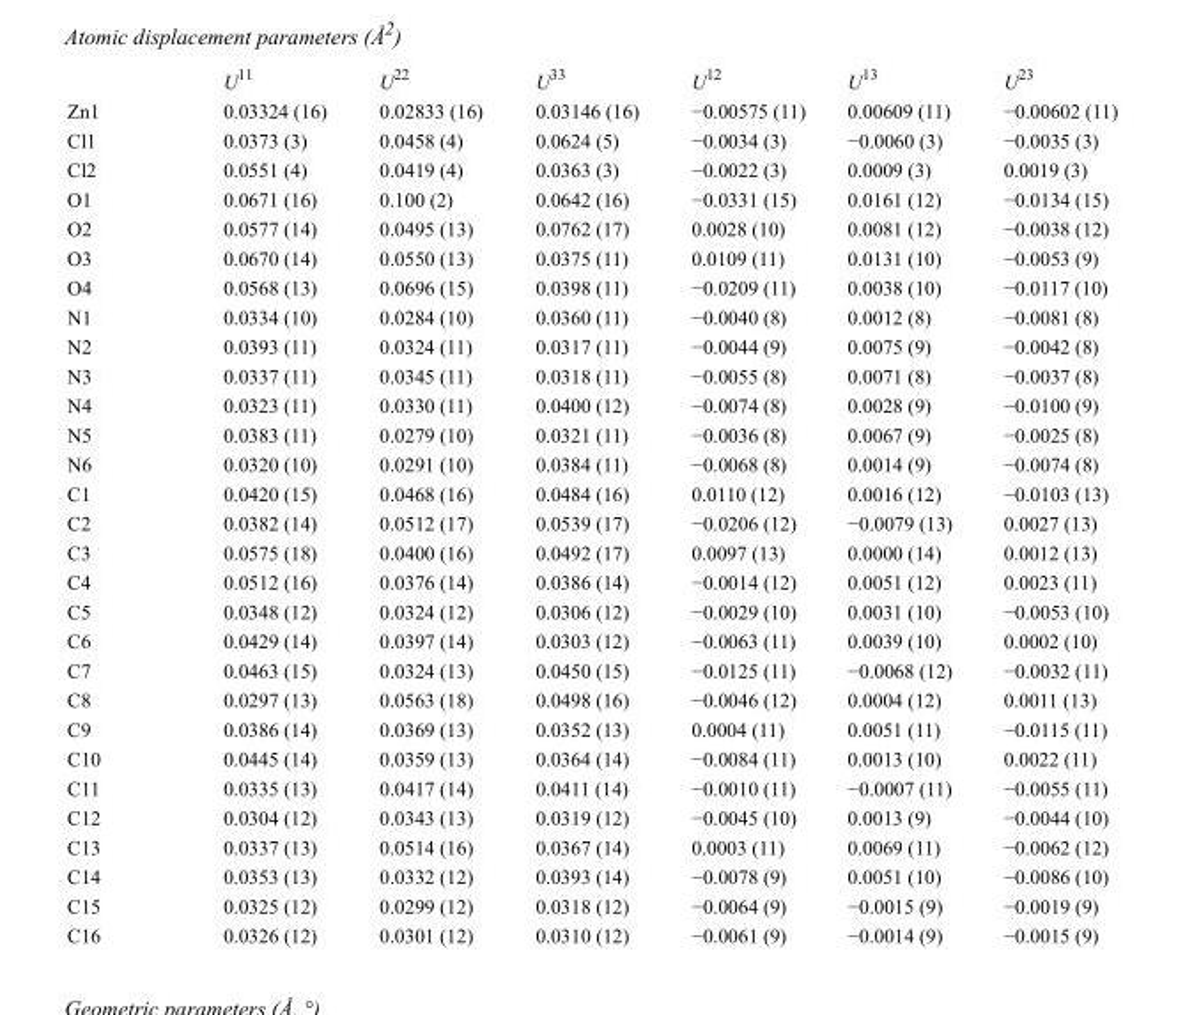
<table><thead><tr><td></td><td>U<sup>11</sup></td><td>U<sup>22</sup></td><td>U<sup>33</sup></td><td>U<sup>12</sup></td><td>U<sup>13</sup></td><td>U<sup>23</sup></td></tr></thead><tbody><tr><td>Zn1</td><td>0.03324 (16)</td><td>0.02833 (16)</td><td>0.03146 (16)</td><td>−0.00575 (11)</td><td>0.00609 (11)</td><td>−0.00602 (11)</td></tr><tr><td>Cl1</td><td>0.0373 (3)</td><td>0.0458 (4)</td><td>0.0624 (5)</td><td>−0.0034 (3)</td><td>−0.0060 (3)</td><td>−0.0035 (3)</td></tr><tr><td>Cl2</td><td>0.0551 (4)</td><td>0.0419 (4)</td><td>0.0363 (3)</td><td>−0.0022 (3)</td><td>0.0009 (3)</td><td>0.0019 (3)</td></tr><tr><td>O1</td><td>0.0671 (16)</td><td>0.100 (2)</td><td>0.0642 (16)</td><td>−0.0331 (15)</td><td>0.0161 (12)</td><td>−0.0134 (15)</td></tr><tr><td>O2</td><td>0.0577 (14)</td><td>0.0495 (13)</td><td>0.0762 (17)</td><td>0.0028 (10)</td><td>0.0081 (12)</td><td>−0.0038 (12)</td></tr><tr><td>O3</td><td>0.0670 (14)</td><td>0.0550 (13)</td><td>0.0375 (11)</td><td>0.0109 (11)</td><td>0.0131 (10)</td><td>−0.0053 (9)</td></tr><tr><td>O4</td><td>0.0568 (13)</td><td>0.0696 (15)</td><td>0.0398 (11)</td><td>−0.0209 (11)</td><td>0.0038 (10)</td><td>−0.0117 (10)</td></tr><tr><td>N1</td><td>0.0334 (10)</td><td>0.0284 (10)</td><td>0.0360 (11)</td><td>−0.0040 (8)</td><td>0.0012 (8)</td><td>−0.0081 (8)</td></tr><tr><td>N2</td><td>0.0393 (11)</td><td>0.0324 (11)</td><td>0.0317 (11)</td><td>−0.0044 (9)</td><td>0.0075 (9)</td><td>−0.0042 (8)</td></tr><tr><td>N3</td><td>0.0337 (11)</td><td>0.0345 (11)</td><td>0.0318 (11)</td><td>−0.0055 (8)</td><td>0.0071 (8)</td><td>−0.0037 (8)</td></tr><tr><td>N4</td><td>0.0323 (11)</td><td>0.0330 (11)</td><td>0.0400 (12)</td><td>−0.0074 (8)</td><td>0.0028 (9)</td><td>−0.0100 (9)</td></tr><tr><td>N5</td><td>0.0383 (11)</td><td>0.0279 (10)</td><td>0.0321 (11)</td><td>−0.0036 (8)</td><td>0.0067 (9)</td><td>−0.0025 (8)</td></tr><tr><td>N6</td><td>0.0320 (10)</td><td>0.0291 (10)</td><td>0.0384 (11)</td><td>−0.0068 (8)</td><td>0.0014 (9)</td><td>−0.0074 (8)</td></tr><tr><td>C1</td><td>0.0420 (15)</td><td>0.0468 (16)</td><td>0.0484 (16)</td><td>0.0110 (12)</td><td>0.0016 (12)</td><td>−0.0103 (13)</td></tr><tr><td>C2</td><td>0.0382 (14)</td><td>0.0512 (17)</td><td>0.0539 (17)</td><td>−0.0206 (12)</td><td>−0.0079 (13)</td><td>0.0027 (13)</td></tr><tr><td>C3</td><td>0.0575 (18)</td><td>0.0400 (16)</td><td>0.0492 (17)</td><td>0.0097 (13)</td><td>0.0000 (14)</td><td>0.0012 (13)</td></tr><tr><td>C4</td><td>0.0512 (16)</td><td>0.0376 (14)</td><td>0.0386 (14)</td><td>−0.0014 (12)</td><td>0.0051 (12)</td><td>0.0023 (11)</td></tr><tr><td>C5</td><td>0.0348 (12)</td><td>0.0324 (12)</td><td>0.0306 (12)</td><td>−0.0029 (10)</td><td>0.0031 (10)</td><td>−0.0053 (10)</td></tr><tr><td>C6</td><td>0.0429 (14)</td><td>0.0397 (14)</td><td>0.0303 (12)</td><td>−0.0063 (11)</td><td>0.0039 (10)</td><td>0.0002 (10)</td></tr><tr><td>C7</td><td>0.0463 (15)</td><td>0.0324 (13)</td><td>0.0450 (15)</td><td>−0.0125 (11)</td><td>−0.0068 (12)</td><td>−0.0032 (11)</td></tr><tr><td>C8</td><td>0.0297 (13)</td><td>0.0563 (18)</td><td>0.0498 (16)</td><td>−0.0046 (12)</td><td>0.0004 (12)</td><td>0.0011 (13)</td></tr><tr><td>C9</td><td>0.0386 (14)</td><td>0.0369 (13)</td><td>0.0352 (13)</td><td>0.0004 (11)</td><td>0.0051 (11)</td><td>−0.0115 (11)</td></tr><tr><td>C10</td><td>0.0445 (14)</td><td>0.0359 (13)</td><td>0.0364 (14)</td><td>−0.0084 (11)</td><td>0.0013 (10)</td><td>0.0022 (11)</td></tr><tr><td>C11</td><td>0.0335 (13)</td><td>0.0417 (14)</td><td>0.0411 (14)</td><td>−0.0010 (11)</td><td>−0.0007 (11)</td><td>−0.0055 (11)</td></tr><tr><td>C12</td><td>0.0304 (12)</td><td>0.0343 (13)</td><td>0.0319 (12)</td><td>−0.0045 (10)</td><td>0.0013 (9)</td><td>−0.0044 (10)</td></tr><tr><td>C13</td><td>0.0337 (13)</td><td>0.0514 (16)</td><td>0.0367 (14)</td><td>0.0003 (11)</td><td>0.0069 (11)</td><td>−0.0062 (12)</td></tr><tr><td>C14</td><td>0.0353 (13)</td><td>0.0332 (12)</td><td>0.0393 (14)</td><td>−0.0078 (9)</td><td>0.0051 (10)</td><td>−0.0086 (10)</td></tr><tr><td>C15</td><td>0.0325 (12)</td><td>0.0299 (12)</td><td>0.0318 (12)</td><td>−0.0064 (9)</td><td>−0.0015 (9)</td><td>−0.0019 (9)</td></tr><tr><td>C16</td><td>0.0326 (12)</td><td>0.0301 (12)</td><td>0.0310 (12)</td><td>−0.0061 (9)</td><td>−0.0014 (9)</td><td>−0.0015 (9)</td></tr></tbody></table>